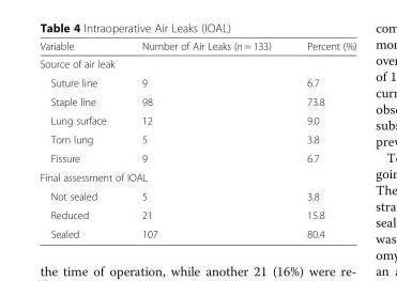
<table><thead><tr><td>Variable</td><td>Number of Air Leaks (n = 133)</td><td>Percent (%)</td></tr></thead><tbody><tr><td colspan="3">Source of air leak</td></tr><tr><td>Suture line</td><td>9</td><td>6.7</td></tr><tr><td>Staple line</td><td>98</td><td>73.8</td></tr><tr><td>Lung surface</td><td>12</td><td>9.0</td></tr><tr><td>Torn lung</td><td>5</td><td>3.8</td></tr><tr><td>Fissure</td><td>9</td><td>6.7</td></tr><tr><td colspan="3">Final assessment of IOAL</td></tr><tr><td>Not sealed</td><td>5</td><td>3.8</td></tr><tr><td>Reduced</td><td>21</td><td>15.8</td></tr><tr><td>Sealed</td><td>107</td><td>80.4</td></tr></tbody></table>